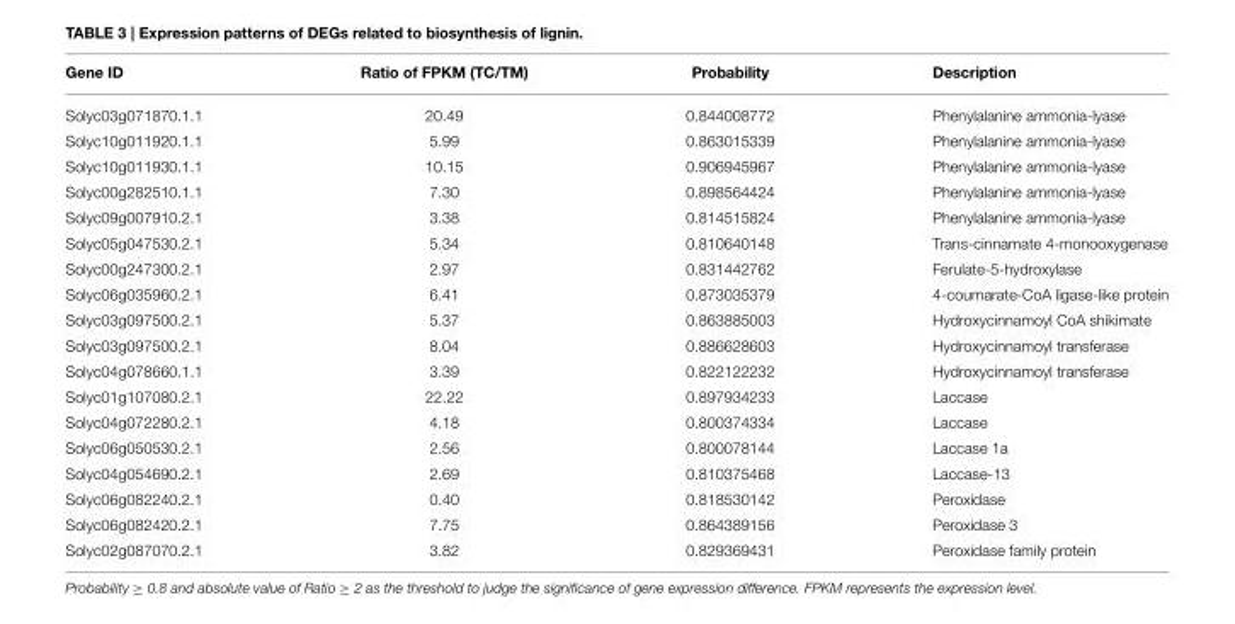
<table><thead><tr><td>Gene ID</td><td>Ratio of FPKM (TC/TM)</td><td>Probability</td><td>Description</td></tr></thead><tbody><tr><td>Solyc03g071870.1.1</td><td>20.49</td><td>0.844008772</td><td>Phenylalanine ammonia-lyase</td></tr><tr><td>Solyc10g011920.1.1</td><td>5.99</td><td>0.863015339</td><td>Phenylalanine ammonia-lyase</td></tr><tr><td>Solyc10g011930.1.1</td><td>10.15</td><td>0.906945967</td><td>Phenylalanine ammonia-lyase</td></tr><tr><td>Solyc00g282510.1.1</td><td>7.30</td><td>0.898564424</td><td>Phenylalanine ammonia-lyase</td></tr><tr><td>Solyc09g007910.2.1</td><td>3.38</td><td>0.814515824</td><td>Phenylalanine ammonia-lyase</td></tr><tr><td>Solyc05g047530.2.1</td><td>5.34</td><td>0.810640148</td><td>Trans-cinnamate 4-monooxygenase</td></tr><tr><td>Solyc00g247300.2.1</td><td>2.97</td><td>0.831442762</td><td>Ferulate-5-hydroxylase</td></tr><tr><td>Solyc06g035960.2.1</td><td>6.41</td><td>0.873035379</td><td>4-coumarate-CoA ligase-like protein</td></tr><tr><td>Solyc03g097500.2.1</td><td>5.37</td><td>0.863885003</td><td>Hydroxycinnamoyl CoA shikimate</td></tr><tr><td>Solyc03g097500.2.1</td><td>8.04</td><td>0.886628603</td><td>Hydroxycinnamoyl transferase</td></tr><tr><td>Solyc04g078660.1.1</td><td>3.39</td><td>0.822122232</td><td>Hydroxycinnamoyl transferase</td></tr><tr><td>Solyc01g107080.2.1</td><td>22.22</td><td>0.897934233</td><td>Laccase</td></tr><tr><td>Solyc04g072280.2.1</td><td>4.18</td><td>0.800374334</td><td>Laccase</td></tr><tr><td>Solyc06g050530.2.1</td><td>2.56</td><td>0.800078144</td><td>Laccase 1a</td></tr><tr><td>Solyc04g054690.2.1</td><td>2.69</td><td>0.810375468</td><td>Laccase-13</td></tr><tr><td>Solyc06g082240.2.1</td><td>0.40</td><td>0.818530142</td><td>Peroxidase</td></tr><tr><td>Solyc06g082420.2.1</td><td>7.75</td><td>0.864389156</td><td>Peroxidase 3</td></tr><tr><td>Solyc02g087070.2.1</td><td>3.82</td><td>0.829369431</td><td>Peroxidase family protein</td></tr></tbody></table>